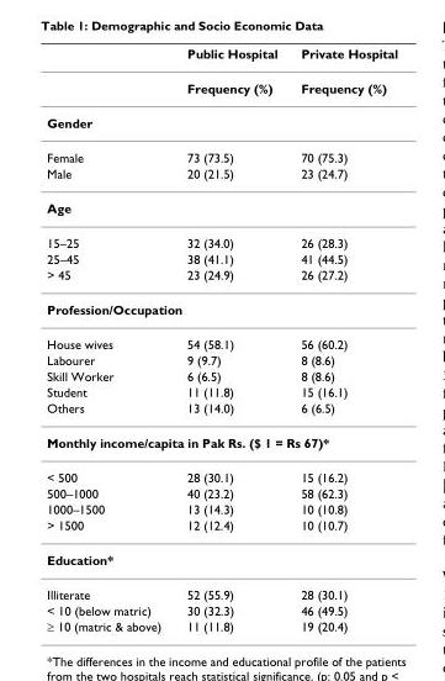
<table><thead><tr><td></td><td>Public Hospital</td><td>Private Hospital</td></tr></thead><tbody><tr><td></td><td>Frequency (%)</td><td>Frequency (%)</td></tr><tr><td colspan="3">Gender</td></tr><tr><td>Female</td><td>73 (73.5)</td><td>70 (75.3)</td></tr><tr><td>Male</td><td>20 (21.5)</td><td>23 (24.7)</td></tr><tr><td colspan="3">Age</td></tr><tr><td>15–25</td><td>32 (34.0)</td><td>26 (28.3)</td></tr><tr><td>25–45</td><td>38 (41.1)</td><td>41 (44.5)</td></tr><tr><td>&gt; 45</td><td>23 (24.9)</td><td>26 (27.2)</td></tr><tr><td colspan="3">Profession/Occupation</td></tr><tr><td>House wives</td><td>54 (58.1)</td><td>56 (60.2)</td></tr><tr><td>Labourer</td><td>9 (9.7)</td><td>8 (8.6)</td></tr><tr><td>Skill Worker</td><td>6 (6.5)</td><td>8 (8.6)</td></tr><tr><td>Student</td><td>11 (11.8)</td><td>15 (16.1)</td></tr><tr><td>Others</td><td>13 (14.0)</td><td>6 (6.5)</td></tr><tr><td colspan="3">Monthly income/capita in Pak Rs. ($ 1 = Rs 67)*</td></tr><tr><td>&lt; 500</td><td>28 (30.1)</td><td>15 (16.2)</td></tr><tr><td>500–1000</td><td>40 (23.2)</td><td>58 (62.3)</td></tr><tr><td>1000–1500</td><td>13 (14.3)</td><td>10 (10.8)</td></tr><tr><td>&gt; 1500</td><td>12 (12.4)</td><td>10 (10.7)</td></tr><tr><td colspan="3">Education*</td></tr><tr><td>Illiterate</td><td>52 (55.9)</td><td>28 (30.1)</td></tr><tr><td>&lt; 10 (below matric)</td><td>30 (32.3)</td><td>46 (49.5)</td></tr><tr><td>≥ 10 (matric &amp; above)</td><td>11 (11.8)</td><td>19 (20.4)</td></tr></tbody></table>